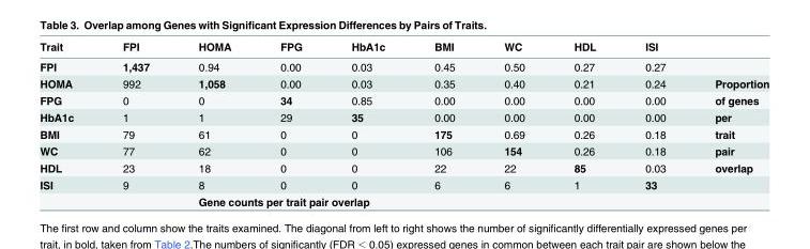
<table><thead><tr><td>Trait</td><td>FPI</td><td>HOMA</td><td>FPG</td><td>HbA1c</td><td>BMI</td><td>WC</td><td>HDL</td><td>ISI</td><td></td></tr></thead><tbody><tr><td>FPI</td><td>1,437</td><td>0.94</td><td>0.00</td><td>0.03</td><td>0.45</td><td>0.50</td><td>0.27</td><td>0.27</td><td></td></tr><tr><td>HOMA</td><td>992</td><td>1,058</td><td>0.00</td><td>0.03</td><td>0.35</td><td>0.40</td><td>0.21</td><td>0.24</td><td>Proportion</td></tr><tr><td>FPG</td><td>0</td><td>0</td><td>34</td><td>0.85</td><td>0.00</td><td>0.00</td><td>0.00</td><td>0.00</td><td>of genes</td></tr><tr><td>HbA1c</td><td>1</td><td>1</td><td>29</td><td>35</td><td>0.00</td><td>0.00</td><td>0.00</td><td>0.00</td><td>per</td></tr><tr><td>BMI</td><td>79</td><td>61</td><td>0</td><td>0</td><td>175</td><td>0.69</td><td>0.26</td><td>0.18</td><td>trait</td></tr><tr><td>WC</td><td>77</td><td>62</td><td>0</td><td>0</td><td>106</td><td>154</td><td>0.26</td><td>0.18</td><td>pair</td></tr><tr><td>HDL</td><td>23</td><td>18</td><td>0</td><td>0</td><td>22</td><td>22</td><td>85</td><td>0.03</td><td>overlap</td></tr><tr><td rowspan="2">ISI</td><td>9</td><td>8</td><td>0</td><td>0</td><td>6</td><td>6</td><td>1</td><td>33</td><td></td></tr><tr><td></td><td colspan="6">Gene counts per trait pair overlap</td><td></td><td></td></tr></tbody></table>